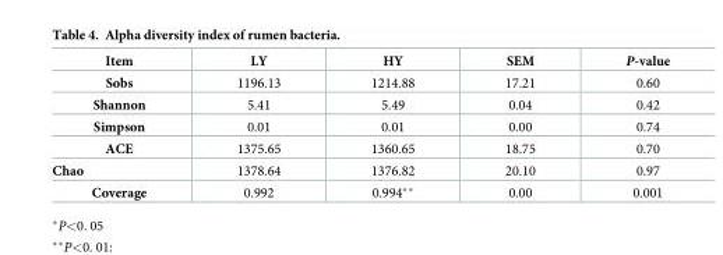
<table><thead><tr><td>Item</td><td>LY</td><td>HY</td><td>SEM</td><td>P-value</td></tr></thead><tbody><tr><td>Sobs</td><td>1196.13</td><td>1214.88</td><td>17.21</td><td>0.60</td></tr><tr><td>Shannon</td><td>5.41</td><td>5.49</td><td>0.04</td><td>0.42</td></tr><tr><td>Simpson</td><td>0.01</td><td>0.01</td><td>0.00</td><td>0.74</td></tr><tr><td>ACE</td><td>1375.65</td><td>1360.65</td><td>18.75</td><td>0.70</td></tr><tr><td>Chao</td><td>1378.64</td><td>1376.82</td><td>20.10</td><td>0.97</td></tr><tr><td>Coverage</td><td>0.992</td><td>0.994**</td><td>0.00</td><td>0.001</td></tr></tbody></table>